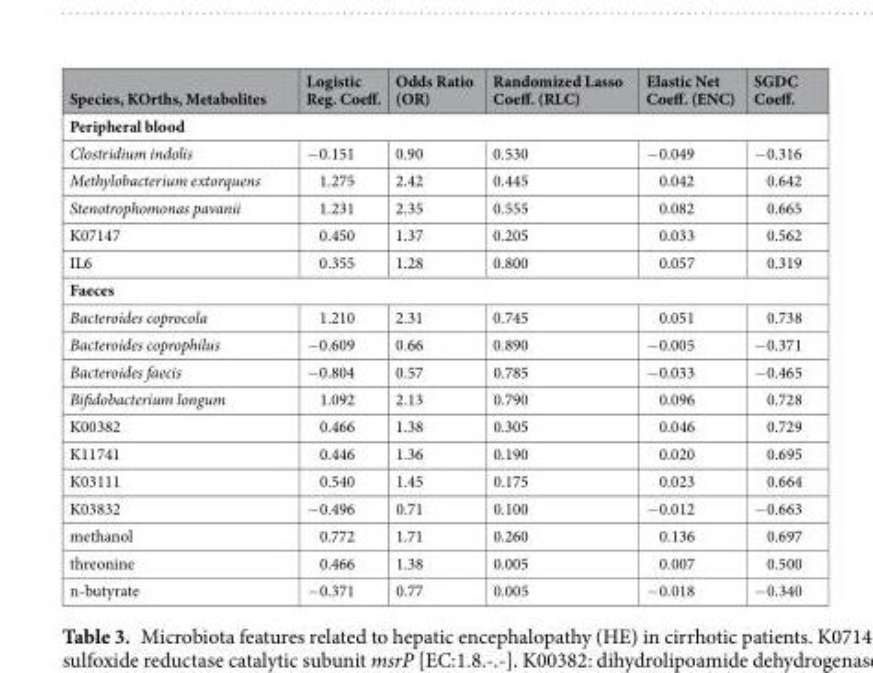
<table><thead><tr><td>Species, KOrths, Metabolites</td><td>Logistic Reg. Coeff.</td><td>Odds Ratio (OR)</td><td>Randomized Lasso Coeff. (RLC)</td><td>Elastic Net Coeff. (ENC)</td><td>SGDC Coeff.</td></tr></thead><tbody><tr><td colspan="6">Peripheral blood</td></tr><tr><td>Clostridium indolis</td><td>−0.151</td><td>0.90</td><td>0.530</td><td>−0.049</td><td>−0.316</td></tr><tr><td>Methylobacterium extorquens</td><td>1.275</td><td>2.42</td><td>0.445</td><td>0.042</td><td>0.642</td></tr><tr><td>Stenotrophomonas pavanii</td><td>1.231</td><td>2.35</td><td>0.555</td><td>0.082</td><td>0.665</td></tr><tr><td>K07147</td><td>0.450</td><td>1.37</td><td>0.205</td><td>0.033</td><td>0.562</td></tr><tr><td>IL6</td><td>0.355</td><td>1.28</td><td>0.800</td><td>0.057</td><td>0.319</td></tr><tr><td colspan="6">Faeces</td></tr><tr><td>Bacteroides coprocola</td><td>1.210</td><td>2.31</td><td>0.745</td><td>0.051</td><td>0.738</td></tr><tr><td>Bacteroides coprophilus</td><td>−0.609</td><td>0.66</td><td>0.890</td><td>−0.005</td><td>−0.371</td></tr><tr><td>Bacteroides faecis</td><td>−0.804</td><td>0.57</td><td>0.785</td><td>−0.033</td><td>−0.465</td></tr><tr><td>Bifidobacterium longum</td><td>1.092</td><td>2.13</td><td>0.790</td><td>0.096</td><td>0.728</td></tr><tr><td>K00382</td><td>0.466</td><td>1.38</td><td>0.305</td><td>0.046</td><td>0.729</td></tr><tr><td>K11741</td><td>0.446</td><td>1.36</td><td>0.190</td><td>0.020</td><td>0.695</td></tr><tr><td>K03111</td><td>0.540</td><td>1.45</td><td>0.175</td><td>0.023</td><td>0.664</td></tr><tr><td>K03832</td><td>−0.496</td><td>0.71</td><td>0.100</td><td>−0.012</td><td>−0.663</td></tr><tr><td>methanol</td><td>0.772</td><td>1.71</td><td>0.260</td><td>0.136</td><td>0.697</td></tr><tr><td>threonine</td><td>0.466</td><td>1.38</td><td>0.005</td><td>0.007</td><td>0.500</td></tr><tr><td>n-butyrate</td><td>−0.371</td><td>0.77</td><td>0.005</td><td>−0.018</td><td>−0.340</td></tr></tbody></table>